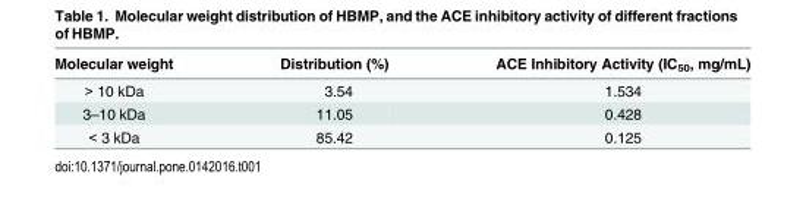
<table><thead><tr><td>Molecular weight</td><td>Distribution (%)</td><td>ACE Inhibitory Activity (IC<sub>50</sub>, mg/mL)</td></tr></thead><tbody><tr><td>&gt; 10 kDa</td><td>3.54</td><td>1.534</td></tr><tr><td>3–10 kDa</td><td>11.05</td><td>0.428</td></tr><tr><td>&lt; 3 kDa</td><td>85.42</td><td>0.125</td></tr></tbody></table>